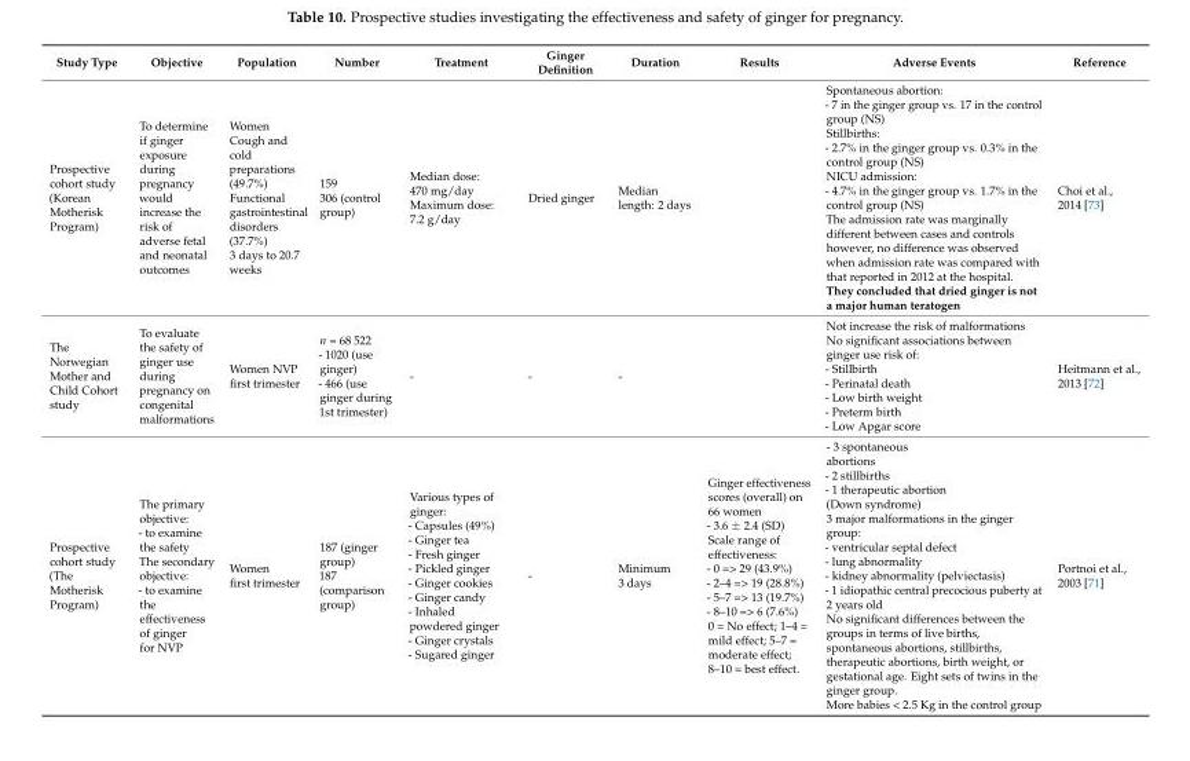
<table><thead><tr><td>Study Type</td><td>Objective</td><td>Population</td><td>Number</td><td>Treatment</td><td>Ginger Definition</td><td>Duration</td><td>Results</td><td>Adverse Events</td><td>Reference</td></tr></thead><tbody><tr><td>Prospective cohort study (Korean Motherisk Program)</td><td>To determine if ginger exposure during pregnancy would increase the risk of adverse fetal and neonatal outcomes</td><td>Women Cough and cold preparations (49.7%) Functional gastrointestinal disorders (37.7%) 3 days to 20.7 weeks</td><td>159 306 (control group)</td><td>Median dose: 470 mg/day Maximum dose: 7.2 g/day</td><td>Dried ginger</td><td>Median length: 2 days</td><td></td><td>Spontaneous abortion: - 7 in the ginger group vs. 17 in the control group (NS) Stillbirths: - 2.7% in the ginger group vs. 0.3% in the control group (NS) NICU admission: - 4.7% in the ginger group vs. 1.7% in the control group (NS) The admission rate was marginally different between cases and controls however, no difference was observed when admission rate was compared with that reported in 2012 at the hospital. They concluded that dried ginger is not a major human teratogen</td><td>Choi et al., 2014 [73]</td></tr><tr><td>The Norwegian Mother and Child Cohort study</td><td>To evaluate the safety of ginger use during pregnancy on congenital malformations</td><td>Women NVP first trimester</td><td>n = 68 522 - 1020 (use ginger) - 466 (use ginger during 1st trimester)</td><td>-</td><td>-</td><td>-</td><td></td><td>Not increase the risk of malformations No significant associations between ginger use risk of: - Stillbirth - Perinatal death - Low birth weight - Preterm birth - Low Apgar score</td><td>Heitmann et al., 2013 [72]</td></tr><tr><td>Prospective cohort study (The Motherisk Program)</td><td>The primary objective: - to examine the safety The secondary objective: - to examine the effectiveness of ginger for NVP</td><td>Women first trimester</td><td>187 (ginger group) 187 (comparison group)</td><td>Various types of ginger: - Capsules (49%) - Ginger tea - Fresh ginger - Pickled ginger - Ginger cookies - Ginger candy - Inhaled powdered ginger - Ginger crystals - Sugared ginger</td><td>-</td><td>Minimum 3 days</td><td>Ginger effectiveness scores (overall) on 66 women - 3.6 ± 2.4 (SD) Scale range of effectiveness: - 0 =&gt; 29 (43.9%) - 2–4 =&gt; 19 (28.8%) - 5–7 =&gt; 13 (19.7%) - 8–10 =&gt; 6 (7.6%) 0 = No effect; 1–4 = mild effect; 5–7 = moderate effect; 8–10 = best effect.</td><td>- 3 spontaneous abortions - 2 stillbirths - 1 therapeutic abortion (Down syndrome) 3 major malformations in the ginger group: - ventricular septal defect - lung abnormality - kidney abnormality (pelviectasis) - 1 idiopathic central precocious puberty at 2 years old No significant differences between the groups in terms of live births, spontaneous abortions, stillbirths, therapeutic abortions, birth weight, or gestational age. Eight sets of twins in the ginger group. More babies &lt; 2.5 Kg in the control group</td><td>Portnoi et al., 2003 [71]</td></tr></tbody></table>